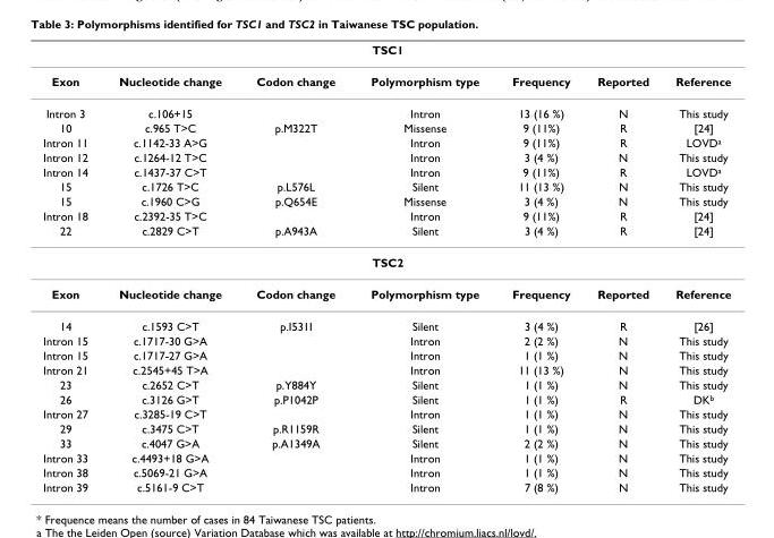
<table><thead><tr><td colspan="7">TSC1</td></tr><tr><td>Exon</td><td>Nucleotide change</td><td>Codon change</td><td>Polymorphism type</td><td>Frequency</td><td>Reported</td><td>Reference</td></tr></thead><tbody><tr><td>Intron 3</td><td>c.106+15</td><td></td><td>Intron</td><td>13 (16 %)</td><td>N</td><td>This study</td></tr><tr><td>10</td><td>c.965 T&gt;C</td><td>p.M322T</td><td>Missense</td><td>9 (11%)</td><td>R</td><td>[24]</td></tr><tr><td>Intron 11</td><td>c.1142-33 A&gt;G</td><td></td><td>Intron</td><td>9 (11%)</td><td>R</td><td>LOVD<sup>a</sup></td></tr><tr><td>Intron 12</td><td>c.1264-12 T&gt;C</td><td></td><td>Intron</td><td>3 (4 %)</td><td>N</td><td>This study</td></tr><tr><td>Intron 14</td><td>c.1437-37 C&gt;T</td><td></td><td>Intron</td><td>9 (11%)</td><td>R</td><td>LOVD<sup>a</sup></td></tr><tr><td>15</td><td>c.1726 T&gt;C</td><td>p.L576L</td><td>Silent</td><td>11 (13 %)</td><td>N</td><td>This study</td></tr><tr><td>15</td><td>c.1960 C&gt;G</td><td>p.Q654E</td><td>Missense</td><td>3 (4 %)</td><td>N</td><td>This study</td></tr><tr><td>Intron 18</td><td>c.2392-35 T&gt;C</td><td></td><td>Intron</td><td>9 (11%)</td><td>R</td><td>[24]</td></tr><tr><td>22</td><td>c.2829 C&gt;T</td><td>p.A943A</td><td>Silent</td><td>3 (4 %)</td><td>R</td><td>[24]</td></tr><tr><td colspan="7">TSC2</td></tr><tr><td>Exon</td><td>Nucleotide change</td><td>Codon change</td><td>Polymorphism type</td><td>Frequency</td><td>Reported</td><td>Reference</td></tr><tr><td>14</td><td>c.1593 C&gt;T</td><td>p.I531I</td><td>Silent</td><td>3 (4 %)</td><td>R</td><td>[26]</td></tr><tr><td>Intron 15</td><td>c.1717-30 G&gt;A</td><td></td><td>Intron</td><td>2 (2 %)</td><td>N</td><td>This study</td></tr><tr><td>Intron 15</td><td>c.1717-27 G&gt;A</td><td></td><td>Intron</td><td>1 (1 %)</td><td>N</td><td>This study</td></tr><tr><td>Intron 21</td><td>c.2545+45 T&gt;A</td><td></td><td>Intron</td><td>11 (13 %)</td><td>N</td><td>This study</td></tr><tr><td>23</td><td>c.2652 C&gt;T</td><td>p.Y884Y</td><td>Silent</td><td>1 (1 %)</td><td>N</td><td>This study</td></tr><tr><td>26</td><td>c.3126 G&gt;T</td><td>p.P1042P</td><td>Silent</td><td>1 (1 %)</td><td>R</td><td>DK<sup>b</sup></td></tr><tr><td>Intron 27</td><td>c.3285-19 C&gt;T</td><td></td><td>Intron</td><td>1 (1 %)</td><td>N</td><td>This study</td></tr><tr><td>29</td><td>c.3475 C&gt;T</td><td>p.R1159R</td><td>Silent</td><td>1 (1 %)</td><td>N</td><td>This study</td></tr><tr><td>33</td><td>c.4047 G&gt;A</td><td>p.A1349A</td><td>Silent</td><td>2 (2 %)</td><td>N</td><td>This study</td></tr><tr><td>Intron 33</td><td>c.4493+18 G&gt;A</td><td></td><td>Intron</td><td>1 (1 %)</td><td>N</td><td>This study</td></tr><tr><td>Intron 38</td><td>c.5069-21 G&gt;A</td><td></td><td>Intron</td><td>1 (1 %)</td><td>N</td><td>This study</td></tr><tr><td>Intron 39</td><td>c.5161-9 C&gt;T</td><td></td><td>Intron</td><td>7 (8 %)</td><td>N</td><td>This study</td></tr></tbody></table>